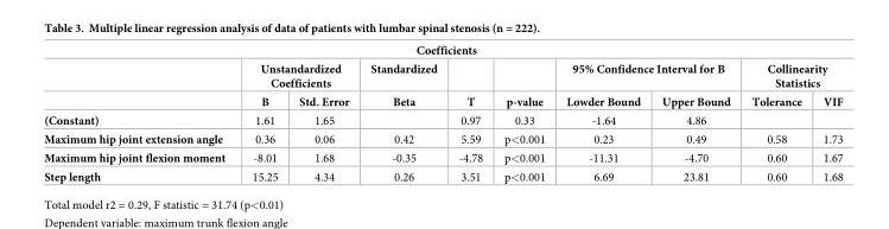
<table><thead><tr><td colspan="10">Coefficients</td></tr><tr><td rowspan="2"></td><td colspan="2">Unstandardized Coefficients</td><td rowspan="2">Standardized Beta</td><td rowspan="2">T</td><td rowspan="2">p-value</td><td colspan="2">95% Confidence Interval for B</td><td colspan="2">Collinearity Statistics</td></tr><tr><td>B</td><td>Std. Error</td><td>Lowder Bound</td><td>Upper Bound</td><td>Tolerance</td><td>VIF</td></tr></thead><tbody><tr><td>(Constant)</td><td>1.61</td><td>1.65</td><td></td><td>0.97</td><td>0.33</td><td>-1.64</td><td>4.86</td><td></td><td></td></tr><tr><td>Maximum hip joint extension angle</td><td>0.36</td><td>0.06</td><td>0.42</td><td>5.59</td><td>p&lt;0.001</td><td>0.23</td><td>0.49</td><td>0.58</td><td>1.73</td></tr><tr><td>Maximum hip joint flexion moment</td><td>-8.01</td><td>1.68</td><td>-0.35</td><td>-4.78</td><td>p&lt;0.001</td><td>-11.31</td><td>-4.70</td><td>0.60</td><td>1.67</td></tr><tr><td>Step length</td><td>15.25</td><td>4.34</td><td>0.26</td><td>3.51</td><td>p&lt;0.001</td><td>6.69</td><td>23.81</td><td>0.60</td><td>1.68</td></tr></tbody></table>